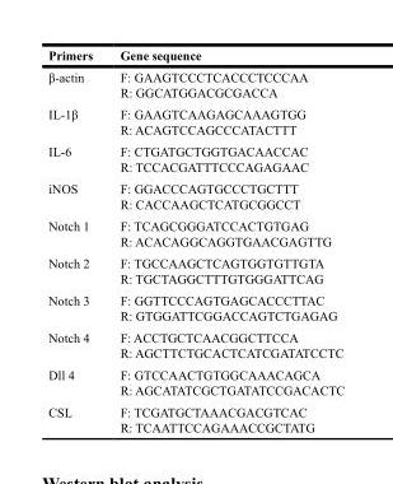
<table><thead><tr><td>Primers</td><td>Gene sequence</td></tr></thead><tbody><tr><td>β-actin</td><td>F: GAAGTCCCTCACCCTCCCAA R: GGCATGGACGCGACCA</td></tr><tr><td>IL-1β</td><td>F: GAAGTCAAGAGCAAAGTGG R: ACAGTCCAGCCCATACTTT</td></tr><tr><td>IL-6</td><td>F: CTGATGCTGGTGACAACCAC R: TCCACGATTTCCCAGAGAAC</td></tr><tr><td>iNOS</td><td>F: GGACCCAGTGCCCTGCTTT R: CACCAAGCTCATGCGGCCT</td></tr><tr><td>Notch 1</td><td>F: TCAGCGGGATCCACTGTGAG R: ACACAGGCAGGTGAACGAGTTG</td></tr><tr><td>Notch 2</td><td>F: TGCCAAGCTCAGTGGTGTTGTA R: TGCTAGGCTTTGTGGGATTCAG</td></tr><tr><td>Notch 3</td><td>F: GGTTCCCAGTGAGCACCCTTAC R: GTGGATTCGGACCAGTCTGAGAG</td></tr><tr><td>Notch 4</td><td>F: ACCTGCTCAACGGCTTCCA R: AGCTTCTGCACTCATCGATATCCTC</td></tr><tr><td>Dll 4</td><td>F: GTCCAACTGTGGCAAACAGCA R: AGCATATCGCTGATATCCGACACTC</td></tr><tr><td>CSL</td><td>F: TCGATGCTAAACGACGTCAC R: TCAATTCCAGAAACCGCTATG</td></tr></tbody></table>